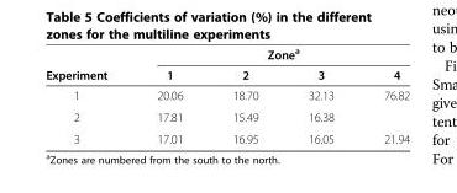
<table><thead><tr><td rowspan="2">Experiment</td><td colspan="4">Zone<sup>a</sup></td></tr><tr><td>1</td><td>2</td><td>3</td><td>4</td></tr></thead><tbody><tr><td>1</td><td>20.06</td><td>18.70</td><td>32.13</td><td>76.82</td></tr><tr><td>2</td><td>17.81</td><td>15.49</td><td>16.38</td><td></td></tr><tr><td>3</td><td>17.01</td><td>16.95</td><td>16.05</td><td>21.94</td></tr></tbody></table>